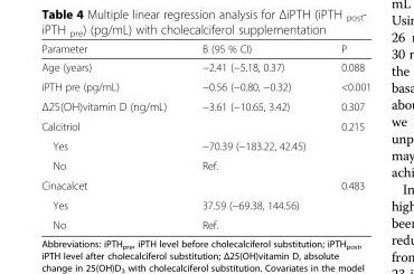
<table><thead><tr><td>Parameter</td><td>Β (95 % CI)</td><td>P</td></tr></thead><tbody><tr><td>Age (years)</td><td>−2.41 (−5.18, 0.37)</td><td>0.088</td></tr><tr><td>iPTH pre (pg/mL)</td><td>−0.56 (−0.80, −0.32)</td><td>&lt;0.001</td></tr><tr><td>Δ25(OH)vitamin D (ng/mL)</td><td>−3.61 (−10.65, 3.42)</td><td>0.307</td></tr><tr><td>Calcitriol</td><td></td><td>0.215</td></tr><tr><td>Yes</td><td>−70.39 (−183.22, 42.45)</td><td></td></tr><tr><td>No</td><td>Ref.</td><td></td></tr><tr><td>Cinacalcet</td><td></td><td>0.483</td></tr><tr><td>Yes</td><td>37.59 (−69.38, 144.56)</td><td></td></tr><tr><td>No</td><td>Ref.</td><td></td></tr></tbody></table>